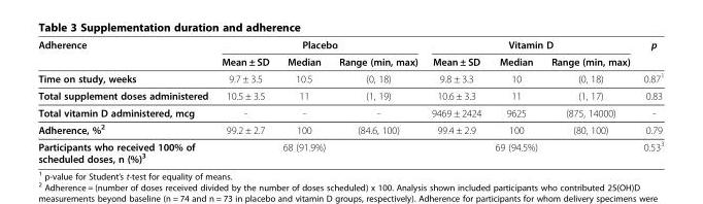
<table><thead><tr><td rowspan="2">Adherence</td><td colspan="3">Placebo</td><td colspan="3">Vitamin D</td><td rowspan="2">p</td></tr><tr><td>Mean ± SD</td><td>Median</td><td>Range (min, max)</td><td>Mean ± SD</td><td>Median</td><td>Range (min, max)</td></tr></thead><tbody><tr><td>Time on study, weeks</td><td>9.7 ± 3.5</td><td>10.5</td><td>(0, 18)</td><td>9.8 ± 3.3</td><td>10</td><td>(0, 18)</td><td>0.87<sup>1</sup></td></tr><tr><td>Total supplement doses administered</td><td>10.5 ± 3.5</td><td>11</td><td>(1, 19)</td><td>10.6 ± 3.3</td><td>11</td><td>(1, 17)</td><td>0.83</td></tr><tr><td>Total vitamin D administered, mcg</td><td>-</td><td>-</td><td>-</td><td>9469 ± 2424</td><td>9625</td><td>(875, 14000)</td><td>-</td></tr><tr><td>Adherence, %<sup>2</sup></td><td>99.2 ± 2.7</td><td>100</td><td>(84.6, 100)</td><td>99.4 ± 2.9</td><td>100</td><td>(80, 100)</td><td>0.79</td></tr><tr><td>Participants who received 100% of scheduled doses, n (%)<sup>3</sup></td><td></td><td>68 (91.9%)</td><td></td><td></td><td>69 (94.5%)</td><td></td><td>0.53<sup>3</sup></td></tr></tbody></table>